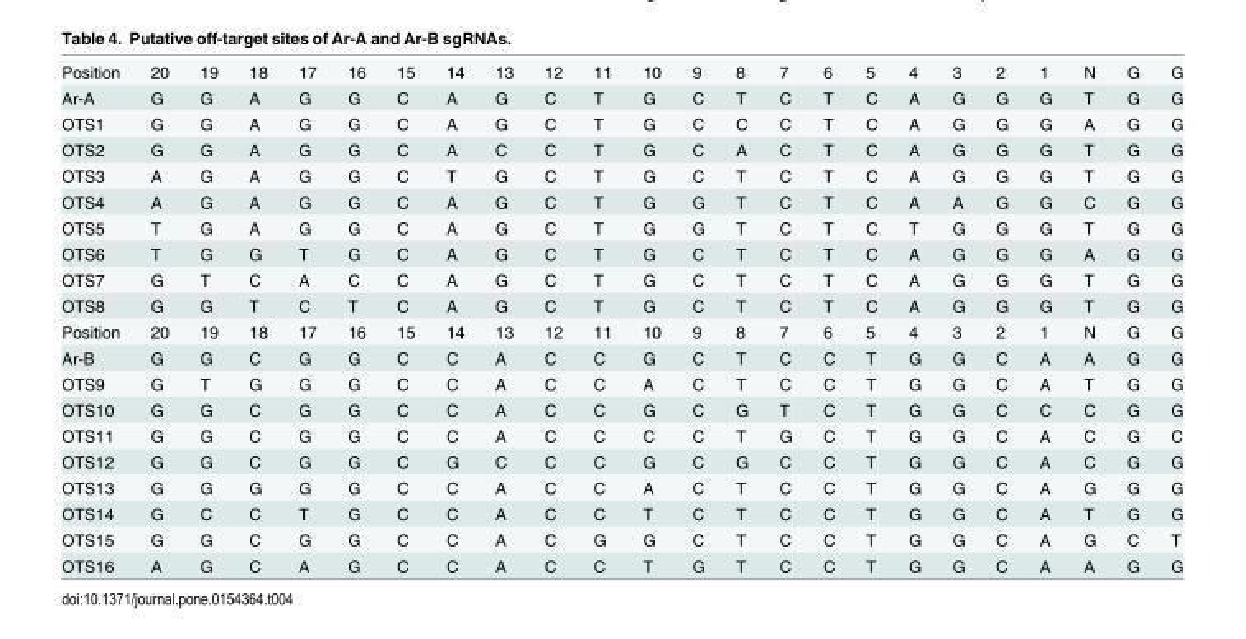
<table><tbody><tr><td>Position</td><td>20</td><td>19</td><td>18</td><td>17</td><td>16</td><td>15</td><td>14</td><td>13</td><td>12</td><td>11</td><td>10</td><td>9</td><td>8</td><td>7</td><td>6</td><td>5</td><td>4</td><td>3</td><td>2</td><td>1</td><td>N</td><td>G</td><td>G</td></tr><tr><td>Ar-A</td><td>G</td><td>G</td><td>A</td><td>G</td><td>G</td><td>C</td><td>A</td><td>G</td><td>C</td><td>T</td><td>G</td><td>C</td><td>T</td><td>C</td><td>T</td><td>C</td><td>A</td><td>G</td><td>G</td><td>G</td><td>T</td><td>G</td><td>G</td></tr><tr><td>OTS1</td><td>G</td><td>G</td><td>A</td><td>G</td><td>G</td><td>C</td><td>A</td><td>G</td><td>C</td><td>T</td><td>G</td><td>C</td><td>C</td><td>C</td><td>T</td><td>C</td><td>A</td><td>G</td><td>G</td><td>G</td><td>A</td><td>G</td><td>G</td></tr><tr><td>OTS2</td><td>G</td><td>G</td><td>A</td><td>G</td><td>G</td><td>C</td><td>A</td><td>C</td><td>C</td><td>T</td><td>G</td><td>C</td><td>A</td><td>C</td><td>T</td><td>C</td><td>A</td><td>G</td><td>G</td><td>G</td><td>T</td><td>G</td><td>G</td></tr><tr><td>OTS3</td><td>A</td><td>G</td><td>A</td><td>G</td><td>G</td><td>C</td><td>T</td><td>G</td><td>C</td><td>T</td><td>G</td><td>C</td><td>T</td><td>C</td><td>T</td><td>C</td><td>A</td><td>G</td><td>G</td><td>G</td><td>T</td><td>G</td><td>G</td></tr><tr><td>OTS4</td><td>A</td><td>G</td><td>A</td><td>G</td><td>G</td><td>C</td><td>A</td><td>G</td><td>C</td><td>T</td><td>G</td><td>G</td><td>T</td><td>C</td><td>T</td><td>C</td><td>A</td><td>A</td><td>G</td><td>G</td><td>C</td><td>G</td><td>G</td></tr><tr><td>OTS5</td><td>T</td><td>G</td><td>A</td><td>G</td><td>G</td><td>C</td><td>A</td><td>G</td><td>C</td><td>T</td><td>G</td><td>G</td><td>T</td><td>C</td><td>T</td><td>C</td><td>T</td><td>G</td><td>G</td><td>G</td><td>T</td><td>G</td><td>G</td></tr><tr><td>OTS6</td><td>T</td><td>G</td><td>G</td><td>T</td><td>G</td><td>C</td><td>A</td><td>G</td><td>C</td><td>T</td><td>G</td><td>C</td><td>T</td><td>C</td><td>T</td><td>C</td><td>A</td><td>G</td><td>G</td><td>G</td><td>A</td><td>G</td><td>G</td></tr><tr><td>OTS7</td><td>G</td><td>T</td><td>C</td><td>A</td><td>C</td><td>C</td><td>A</td><td>G</td><td>C</td><td>T</td><td>G</td><td>C</td><td>T</td><td>C</td><td>T</td><td>C</td><td>A</td><td>G</td><td>G</td><td>G</td><td>T</td><td>G</td><td>G</td></tr><tr><td>OTS8</td><td>G</td><td>G</td><td>T</td><td>C</td><td>T</td><td>C</td><td>A</td><td>G</td><td>C</td><td>T</td><td>G</td><td>C</td><td>T</td><td>C</td><td>T</td><td>C</td><td>A</td><td>G</td><td>G</td><td>G</td><td>T</td><td>G</td><td>G</td></tr><tr><td>Position</td><td>20</td><td>19</td><td>18</td><td>17</td><td>16</td><td>15</td><td>14</td><td>13</td><td>12</td><td>11</td><td>10</td><td>9</td><td>8</td><td>7</td><td>6</td><td>5</td><td>4</td><td>3</td><td>2</td><td>1</td><td>N</td><td>G</td><td>G</td></tr><tr><td>Ar-B</td><td>G</td><td>G</td><td>C</td><td>G</td><td>G</td><td>C</td><td>C</td><td>A</td><td>C</td><td>C</td><td>G</td><td>C</td><td>T</td><td>C</td><td>C</td><td>T</td><td>G</td><td>G</td><td>C</td><td>A</td><td>A</td><td>G</td><td>G</td></tr><tr><td>OTS9</td><td>G</td><td>T</td><td>G</td><td>G</td><td>G</td><td>C</td><td>C</td><td>A</td><td>C</td><td>C</td><td>A</td><td>C</td><td>T</td><td>C</td><td>C</td><td>T</td><td>G</td><td>G</td><td>C</td><td>A</td><td>T</td><td>G</td><td>G</td></tr><tr><td>OTS10</td><td>G</td><td>G</td><td>C</td><td>G</td><td>G</td><td>C</td><td>C</td><td>A</td><td>C</td><td>C</td><td>G</td><td>C</td><td>G</td><td>T</td><td>C</td><td>T</td><td>G</td><td>G</td><td>C</td><td>C</td><td>C</td><td>G</td><td>G</td></tr><tr><td>OTS11</td><td>G</td><td>G</td><td>C</td><td>G</td><td>G</td><td>C</td><td>C</td><td>A</td><td>C</td><td>C</td><td>C</td><td>C</td><td>T</td><td>G</td><td>C</td><td>T</td><td>G</td><td>G</td><td>C</td><td>A</td><td>C</td><td>G</td><td>C</td></tr><tr><td>OTS12</td><td>G</td><td>G</td><td>C</td><td>G</td><td>G</td><td>C</td><td>G</td><td>C</td><td>C</td><td>C</td><td>G</td><td>C</td><td>G</td><td>C</td><td>C</td><td>T</td><td>G</td><td>G</td><td>C</td><td>A</td><td>C</td><td>G</td><td>G</td></tr><tr><td>OTS13</td><td>G</td><td>G</td><td>G</td><td>G</td><td>G</td><td>C</td><td>C</td><td>A</td><td>C</td><td>C</td><td>A</td><td>C</td><td>T</td><td>C</td><td>C</td><td>T</td><td>G</td><td>G</td><td>C</td><td>A</td><td>G</td><td>G</td><td>G</td></tr><tr><td>OTS14</td><td>G</td><td>C</td><td>C</td><td>T</td><td>G</td><td>C</td><td>C</td><td>A</td><td>C</td><td>C</td><td>T</td><td>C</td><td>T</td><td>C</td><td>C</td><td>T</td><td>G</td><td>G</td><td>C</td><td>A</td><td>T</td><td>G</td><td>G</td></tr><tr><td>OTS15</td><td>G</td><td>G</td><td>C</td><td>G</td><td>G</td><td>C</td><td>C</td><td>A</td><td>C</td><td>G</td><td>G</td><td>C</td><td>T</td><td>C</td><td>C</td><td>T</td><td>G</td><td>G</td><td>C</td><td>A</td><td>G</td><td>C</td><td>T</td></tr><tr><td>OTS16</td><td>A</td><td>G</td><td>C</td><td>A</td><td>G</td><td>C</td><td>C</td><td>A</td><td>C</td><td>C</td><td>T</td><td>G</td><td>T</td><td>C</td><td>C</td><td>T</td><td>G</td><td>G</td><td>C</td><td>A</td><td>A</td><td>G</td><td>G</td></tr></tbody></table>